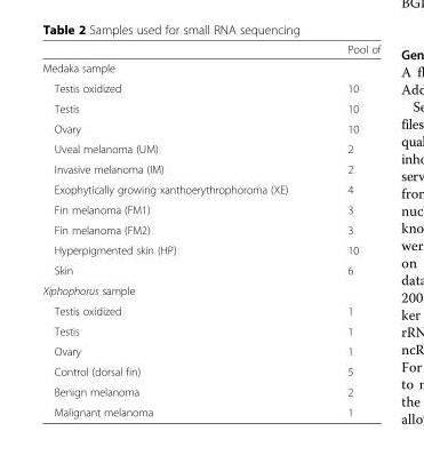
<table><thead><tr><td></td><td>Pool of</td></tr></thead><tbody><tr><td colspan="2">Medaka sample</td></tr><tr><td>Testis oxidized</td><td>10</td></tr><tr><td>Testis</td><td>10</td></tr><tr><td>Ovary</td><td>10</td></tr><tr><td>Uveal melanoma (UM)</td><td>2</td></tr><tr><td>Invasive melanoma (IM)</td><td>2</td></tr><tr><td>Exophytically growing xanthoerythrophoroma (XE)</td><td>4</td></tr><tr><td>Fin melanoma (FM1)</td><td>3</td></tr><tr><td>Fin melanoma (FM2)</td><td>3</td></tr><tr><td>Hyperpigmented skin (HP)</td><td>10</td></tr><tr><td>Skin</td><td>6</td></tr><tr><td colspan="2">Xiphophorus sample</td></tr><tr><td>Testis oxidized</td><td>1</td></tr><tr><td>Testis</td><td>1</td></tr><tr><td>Ovary</td><td>1</td></tr><tr><td>Control (dorsal fin)</td><td>5</td></tr><tr><td>Benign melanoma</td><td>2</td></tr><tr><td>Malignant melanoma</td><td>1</td></tr></tbody></table>